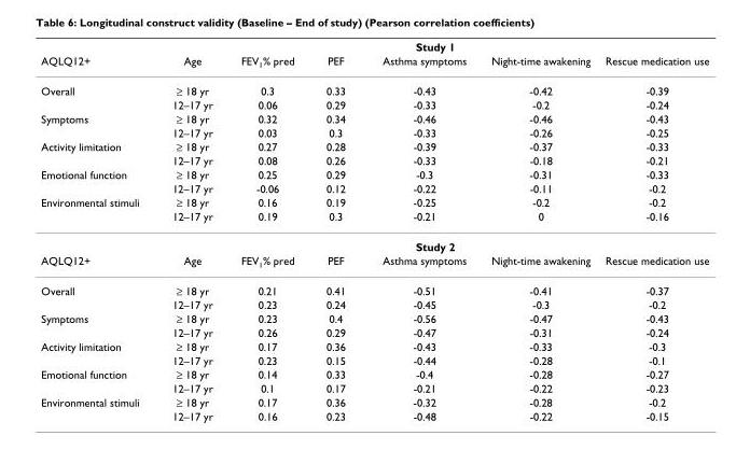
<table><thead><tr><td rowspan="2">AQLQ12+</td><td colspan="6">Study 1</td></tr><tr><td>Age</td><td>FEV<sub>1</sub>% pred</td><td>PEF</td><td>Asthma symptoms</td><td>Night-time awakening</td><td>Rescue medication use</td></tr></thead><tbody><tr><td rowspan="2">Overall</td><td>≥ 18 yr</td><td>0.3</td><td>0.33</td><td>-0.43</td><td>-0.42</td><td>-0.39</td></tr><tr><td>12–17 yr</td><td>0.06</td><td>0.29</td><td>-0.33</td><td>-0.2</td><td>-0.24</td></tr><tr><td rowspan="2">Symptoms</td><td>≥ 18 yr</td><td>0.32</td><td>0.34</td><td>-0.46</td><td>-0.46</td><td>-0.43</td></tr><tr><td>12–17 yr</td><td>0.03</td><td>0.3</td><td>-0.33</td><td>-0.26</td><td>-0.25</td></tr><tr><td rowspan="2">Activity limitation</td><td>≥ 18 yr</td><td>0.27</td><td>0.28</td><td>-0.39</td><td>-0.37</td><td>-0.33</td></tr><tr><td>12–17 yr</td><td>0.08</td><td>0.26</td><td>-0.33</td><td>-0.18</td><td>-0.21</td></tr><tr><td rowspan="2">Emotional function</td><td>≥ 18 yr</td><td>0.25</td><td>0.29</td><td>-0.3</td><td>-0.31</td><td>-0.33</td></tr><tr><td>12–17 yr</td><td>-0.06</td><td>0.12</td><td>-0.22</td><td>-0.11</td><td>-0.2</td></tr><tr><td rowspan="3">Environmental stimuli</td><td>≥ 18 yr</td><td>0.16</td><td>0.19</td><td>-0.25</td><td>-0.2</td><td>-0.2</td></tr><tr><td>12–17 yr</td><td>0.19</td><td>0.3</td><td>-0.21</td><td>0</td><td>-0.16</td></tr><tr><td colspan="6">Study 2</td></tr><tr><td>AQLQ12+</td><td>Age</td><td>FEV<sub>1</sub>% pred</td><td>PEF</td><td>Asthma symptoms</td><td>Night-time awakening</td><td>Rescue medication use</td></tr><tr><td rowspan="2">Overall</td><td>≥ 18 yr</td><td>0.21</td><td>0.41</td><td>-0.51</td><td>-0.41</td><td>-0.37</td></tr><tr><td>12–17 yr</td><td>0.23</td><td>0.24</td><td>-0.45</td><td>-0.3</td><td>-0.2</td></tr><tr><td rowspan="2">Symptoms</td><td>≥ 18 yr</td><td>0.23</td><td>0.4</td><td>-0.56</td><td>-0.47</td><td>-0.43</td></tr><tr><td>12–17 yr</td><td>0.26</td><td>0.29</td><td>-0.47</td><td>-0.31</td><td>-0.24</td></tr><tr><td rowspan="2">Activity limitation</td><td>≥ 18 yr</td><td>0.17</td><td>0.36</td><td>-0.43</td><td>-0.33</td><td>-0.3</td></tr><tr><td>12–17 yr</td><td>0.23</td><td>0.15</td><td>-0.44</td><td>-0.28</td><td>-0.1</td></tr><tr><td rowspan="2">Emotional function</td><td>≥ 18 yr</td><td>0.14</td><td>0.33</td><td>-0.4</td><td>-0.28</td><td>-0.27</td></tr><tr><td>12–17 yr</td><td>0.1</td><td>0.17</td><td>-0.21</td><td>-0.22</td><td>-0.23</td></tr><tr><td rowspan="2">Environmental stimuli</td><td>≥ 18 yr</td><td>0.17</td><td>0.36</td><td>-0.32</td><td>-0.28</td><td>-0.2</td></tr><tr><td>12–17 yr</td><td>0.16</td><td>0.23</td><td>-0.48</td><td>-0.22</td><td>-0.15</td></tr></tbody></table>